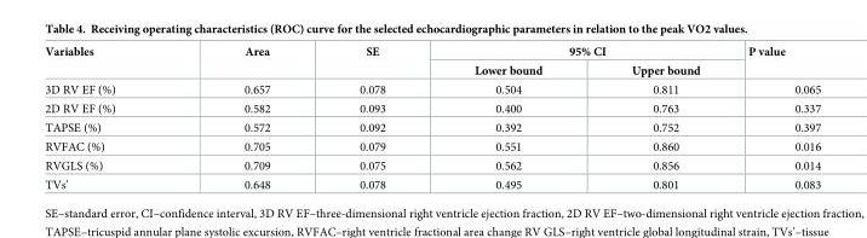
<table><thead><tr><td rowspan="2">Variables</td><td rowspan="2">Area</td><td rowspan="2">SE</td><td colspan="2">95% CI</td><td rowspan="2">P value</td></tr><tr><td>Lower bound</td><td>Upper bound</td></tr></thead><tbody><tr><td>3D RV EF (%)</td><td>0.657</td><td>0.078</td><td>0.504</td><td>0.811</td><td>0.065</td></tr><tr><td>2D RV EF (%)</td><td>0.582</td><td>0.093</td><td>0.400</td><td>0.763</td><td>0.337</td></tr><tr><td>TAPSE (%)</td><td>0.572</td><td>0.092</td><td>0.392</td><td>0.752</td><td>0.397</td></tr><tr><td>RVFAC (%)</td><td>0.705</td><td>0.079</td><td>0.551</td><td>0.860</td><td>0.016</td></tr><tr><td>RVGLS (%)</td><td>0.709</td><td>0.075</td><td>0.562</td><td>0.856</td><td>0.014</td></tr><tr><td>TVs’</td><td>0.648</td><td>0.078</td><td>0.495</td><td>0.801</td><td>0.083</td></tr></tbody></table>